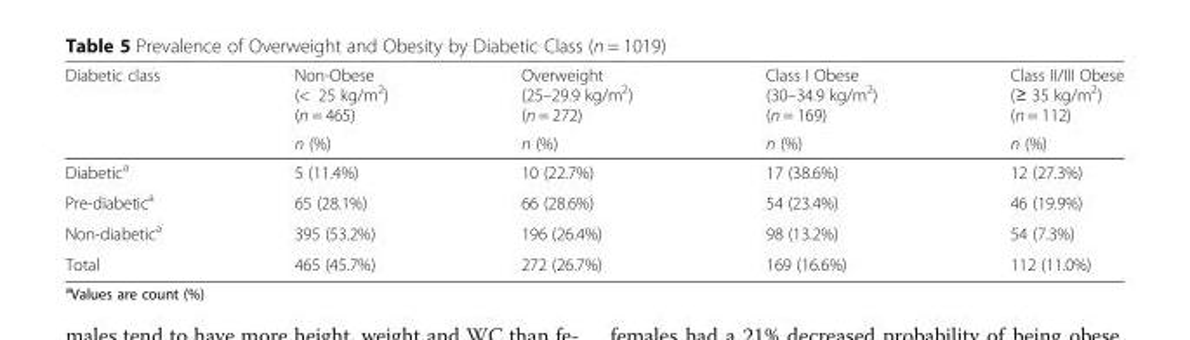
<table><thead><tr><td rowspan="2">Diabetic class</td><td rowspan="2">Non-Obese (&lt; 25 kg/m<sup>2</sup>) (n = 465) n (%)</td><td rowspan="2">Overweight (25–29.9 kg/m<sup>2</sup>) (n = 272) n (%)</td><td rowspan="2">Class I Obese (30–34.9 kg/m<sup>2</sup>) (n = 169) n (%)</td><td rowspan="2">Class II/III Obese (≥ 35 kg/m<sup>2</sup>) (n = 112) n (%)</td></tr><tr></tr></thead><tbody><tr><td>Diabetic<sup>a</sup></td><td>5 (11.4%)</td><td>10 (22.7%)</td><td>17 (38.6%)</td><td>12 (27.3%)</td></tr><tr><td>Pre-diabetic<sup>a</sup></td><td>65 (28.1%)</td><td>66 (28.6%)</td><td>54 (23.4%)</td><td>46 (19.9%)</td></tr><tr><td>Non-diabetic<sup>a</sup></td><td>395 (53.2%)</td><td>196 (26.4%)</td><td>98 (13.2%)</td><td>54 (7.3%)</td></tr><tr><td>Total</td><td>465 (45.7%)</td><td>272 (26.7%)</td><td>169 (16.6%)</td><td>112 (11.0%)</td></tr></tbody></table>